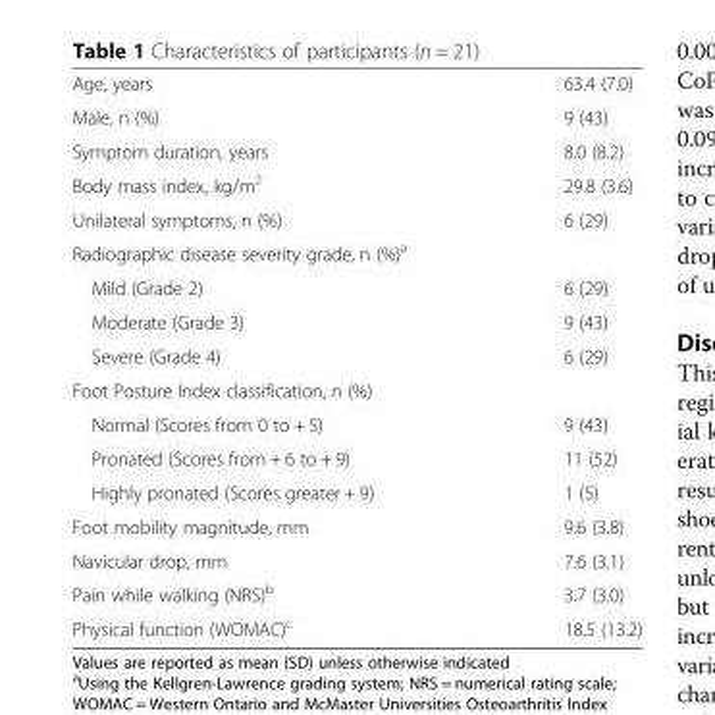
<table><tbody><tr><td>Age, years</td><td>63.4 (7.0)</td></tr><tr><td>Male, n (%)</td><td>9 (43)</td></tr><tr><td>Symptom duration, years</td><td>8.0 (8.2)</td></tr><tr><td>Body mass index, kg/m<sup>2</sup></td><td>29.8 (3.6)</td></tr><tr><td>Unilateral symptoms, n (%)</td><td>6 (29)</td></tr><tr><td colspan="2">Radiographic disease severity grade, n (%)<sup>a</sup></td></tr><tr><td>Mild (Grade 2)</td><td>6 (29)</td></tr><tr><td>Moderate (Grade 3)</td><td>9 (43)</td></tr><tr><td>Severe (Grade 4)</td><td>6 (29)</td></tr><tr><td colspan="2">Foot Posture Index classification, n (%)</td></tr><tr><td>Normal (Scores from 0 to + 5)</td><td>9 (43)</td></tr><tr><td>Pronated (Scores from + 6 to + 9)</td><td>11 (52)</td></tr><tr><td>Highly pronated (Scores greater + 9)</td><td>1 (5)</td></tr><tr><td>Foot mobility magnitude, mm</td><td>9.6 (3.8)</td></tr><tr><td>Navicular drop, mm</td><td>7.6 (3.1)</td></tr><tr><td>Pain while walking (NRS)<sup>b</sup></td><td>3.7 (3.0)</td></tr><tr><td>Physical function (WOMAC)<sup>c</sup></td><td>18.5 (13.2)</td></tr></tbody></table>